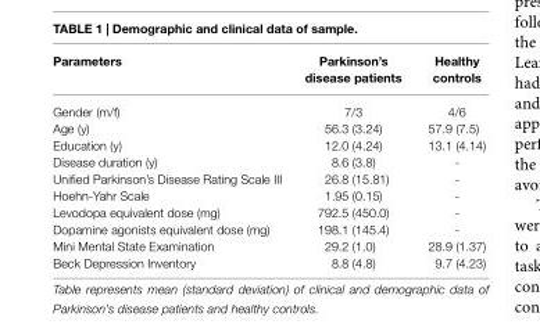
<table><thead><tr><td>Parameters</td><td>Parkinson’s disease patients</td><td>Healthy controls</td></tr></thead><tbody><tr><td>Gender (m/f)</td><td>7/3</td><td>4/6</td></tr><tr><td>Age (y)</td><td>56.3 (3.24)</td><td>57.9 (7.5)</td></tr><tr><td>Education (y)</td><td>12.0 (4.24)</td><td>13.1 (4.14)</td></tr><tr><td>Disease duration (y)</td><td>8.6 (3.8)</td><td>-</td></tr><tr><td>Unified Parkinson’s Disease Rating Scale III</td><td>26.8 (15.81)</td><td>-</td></tr><tr><td>Hoehn-Yahr Scale</td><td>1.95 (0.15)</td><td>-</td></tr><tr><td>Levodopa equivalent dose (mg)</td><td>792.5 (450.0)</td><td>-</td></tr><tr><td>Dopamine agonists equivalent dose (mg)</td><td>198.1 (145.4)</td><td>-</td></tr><tr><td>Mini Mental State Examination</td><td>29.2 (1.0)</td><td>28.9 (1.37)</td></tr><tr><td>Beck Depression Inventory</td><td>8.8 (4.8)</td><td>9.7 (4.23)</td></tr></tbody></table>